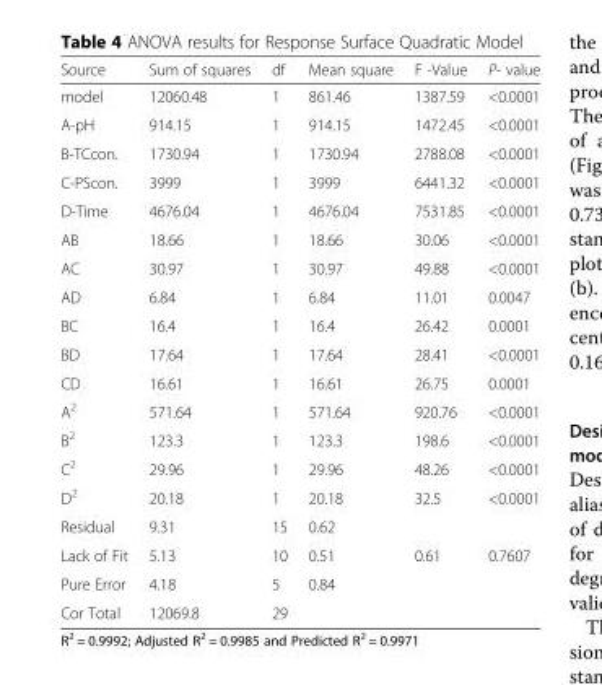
<table><thead><tr><td>Source</td><td>Sum of squares</td><td>df</td><td>Mean square</td><td>F -Value</td><td>P- value</td></tr></thead><tbody><tr><td>model</td><td>12060.48</td><td>1</td><td>861.46</td><td>1387.59</td><td>&lt;0.0001</td></tr><tr><td>A-pH</td><td>914.15</td><td>1</td><td>914.15</td><td>1472.45</td><td>&lt;0.0001</td></tr><tr><td>B-TCcon.</td><td>1730.94</td><td>1</td><td>1730.94</td><td>2788.08</td><td>&lt;0.0001</td></tr><tr><td>C-PScon.</td><td>3999</td><td>1</td><td>3999</td><td>6441.32</td><td>&lt;0.0001</td></tr><tr><td>D-Time</td><td>4676.04</td><td>1</td><td>4676.04</td><td>7531.85</td><td>&lt;0.0001</td></tr><tr><td>AB</td><td>18.66</td><td>1</td><td>18.66</td><td>30.06</td><td>&lt;0.0001</td></tr><tr><td>AC</td><td>30.97</td><td>1</td><td>30.97</td><td>49.88</td><td>&lt;0.0001</td></tr><tr><td>AD</td><td>6.84</td><td>1</td><td>6.84</td><td>11.01</td><td>0.0047</td></tr><tr><td>BC</td><td>16.4</td><td>1</td><td>16.4</td><td>26.42</td><td>0.0001</td></tr><tr><td>BD</td><td>17.64</td><td>1</td><td>17.64</td><td>28.41</td><td>&lt;0.0001</td></tr><tr><td>CD</td><td>16.61</td><td>1</td><td>16.61</td><td>26.75</td><td>0.0001</td></tr><tr><td>A<sup>2</sup></td><td>571.64</td><td>1</td><td>571.64</td><td>920.76</td><td>&lt;0.0001</td></tr><tr><td>B<sup>2</sup></td><td>123.3</td><td>1</td><td>123.3</td><td>198.6</td><td>&lt;0.0001</td></tr><tr><td>C<sup>2</sup></td><td>29.96</td><td>1</td><td>29.96</td><td>48.26</td><td>&lt;0.0001</td></tr><tr><td>D<sup>2</sup></td><td>20.18</td><td>1</td><td>20.18</td><td>32.5</td><td>&lt;0.0001</td></tr><tr><td>Residual</td><td>9.31</td><td>15</td><td>0.62</td><td></td><td></td></tr><tr><td>Lack of Fit</td><td>5.13</td><td>10</td><td>0.51</td><td>0.61</td><td>0.7607</td></tr><tr><td>Pure Error</td><td>4.18</td><td>5</td><td>0.84</td><td></td><td></td></tr><tr><td>Cor Total</td><td>12069.8</td><td>29</td><td></td><td></td><td></td></tr></tbody></table>